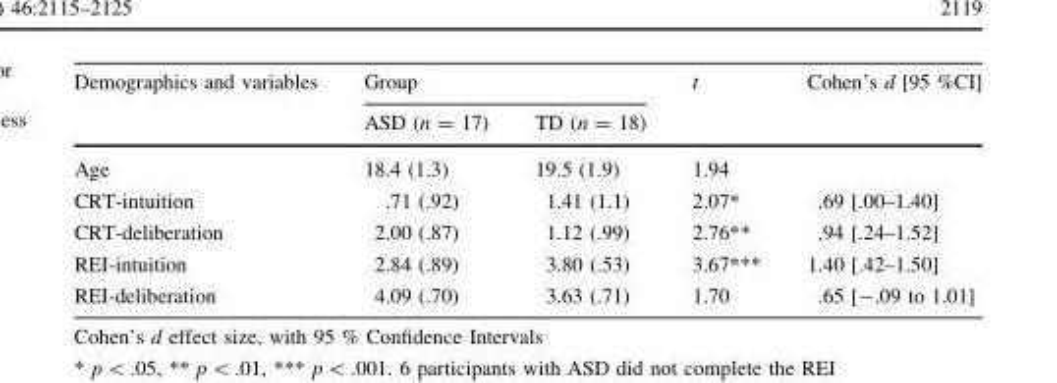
<table><thead><tr><td rowspan="2">Demographics and variables</td><td colspan="2">Group</td><td rowspan="2">t</td><td rowspan="2">Cohen’s d [95 %CI]</td></tr><tr><td>ASD (n = 17)</td><td>TD (n = 18)</td></tr></thead><tbody><tr><td>Age</td><td>18.4 (1.3)</td><td>19.5 (1.9)</td><td>1.94</td><td></td></tr><tr><td>CRT-intuition</td><td>.71 (.92)</td><td>1.41 (1.1)</td><td>2.07*</td><td>.69 [.00–1.40]</td></tr><tr><td>CRT-deliberation</td><td>2.00 (.87)</td><td>1.12 (.99)</td><td>2.76**</td><td>.94 [.24–1.52]</td></tr><tr><td>REI-intuition</td><td>2.84 (.89)</td><td>3.80 (.53)</td><td>3.67***</td><td>1.40 [.42–1.50]</td></tr><tr><td>REI-deliberation</td><td>4.09 (.70)</td><td>3.63 (.71)</td><td>1.70</td><td>.65 [-.09 to 1.01]</td></tr></tbody></table>